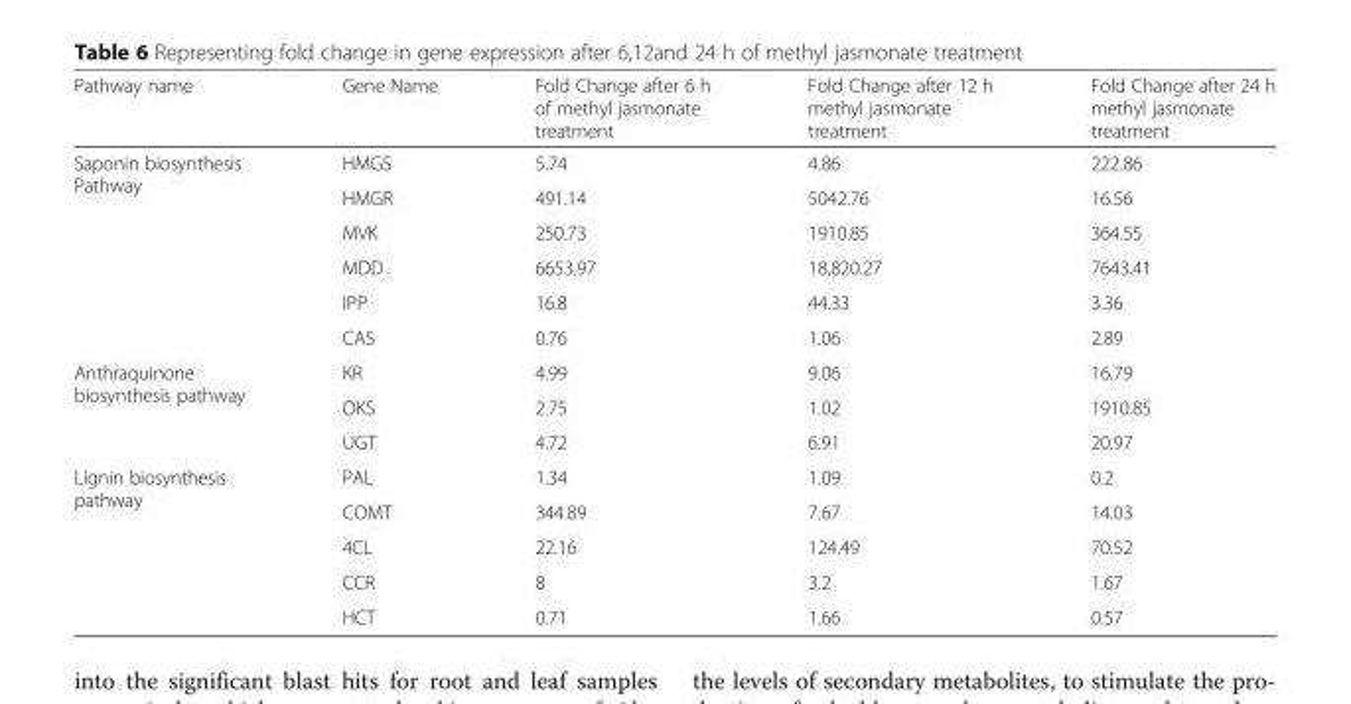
<table><thead><tr><td>Pathway name</td><td>Gene Name</td><td>Fold Change after 6 h of methyl jasmonate treatment</td><td>Fold Change after 12 h methyl jasmonate treatment</td><td>Fold Change after 24 h methyl jasmonate treatment</td></tr></thead><tbody><tr><td rowspan="6">Saponin biosynthesis Pathway</td><td>HMGS</td><td>5.74</td><td>4.86</td><td>222.86</td></tr><tr><td>HMGR</td><td>491.14</td><td>5042.76</td><td>16.56</td></tr><tr><td>MVK</td><td>250.73</td><td>1910.85</td><td>364.55</td></tr><tr><td>MDD</td><td>6653.97</td><td>18,820.27</td><td>7643.41</td></tr><tr><td>IPP</td><td>16.8</td><td>44.33</td><td>3.36</td></tr><tr><td>CAS</td><td>0.76</td><td>1.06</td><td>2.89</td></tr><tr><td rowspan="3">Anthraquinone biosynthesis pathway</td><td>KR</td><td>4.99</td><td>9.06</td><td>16.79</td></tr><tr><td>OKS</td><td>2.75</td><td>1.02</td><td>1910.85</td></tr><tr><td>UGT</td><td>4.72</td><td>6.91</td><td>20.97</td></tr><tr><td rowspan="5">Lignin biosynthesis pathway</td><td>PAL</td><td>1.34</td><td>1.09</td><td>0.2</td></tr><tr><td>COMT</td><td>344.89</td><td>7.67</td><td>14.03</td></tr><tr><td>4CL</td><td>22.16</td><td>124.49</td><td>70.52</td></tr><tr><td>CCR</td><td>8</td><td>3.2</td><td>1.67</td></tr><tr><td>HCT</td><td>0.71</td><td>1.66</td><td>0.57</td></tr></tbody></table>